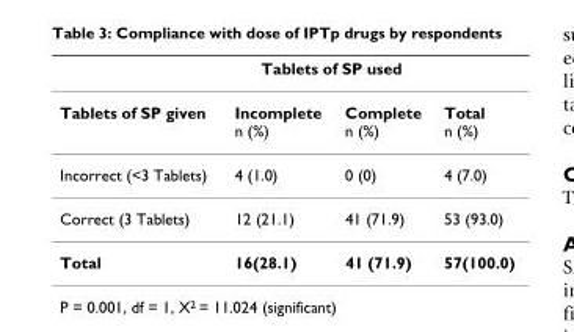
<table><thead><tr><td rowspan="2">Tablets of SP given</td><td colspan="2">Tablets of SP used</td><td rowspan="2">Total n (%)</td></tr><tr><td>Incomplete n (%)</td><td>Complete n (%)</td></tr></thead><tbody><tr><td>Incorrect (&lt;3 Tablets)</td><td>4 (1.0)</td><td>0 (0)</td><td>4 (7.0)</td></tr><tr><td>Correct (3 Tablets)</td><td>12 (21.1)</td><td>41 (71.9)</td><td>53 (93.0)</td></tr><tr><td>Total</td><td>16(28.1)</td><td>41 (71.9)</td><td>57(100.0)</td></tr></tbody></table>